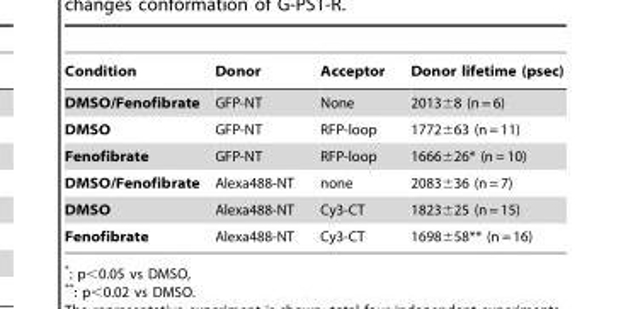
<table><thead><tr><td>Condition</td><td>Donor</td><td>Acceptor</td><td>Donor lifetime (psec)</td></tr></thead><tbody><tr><td>DMSO/Fenofibrate</td><td>GFP-NT</td><td>None</td><td>2013±8 (n = 6)</td></tr><tr><td>DMSO</td><td>GFP-NT</td><td>RFP-loop</td><td>1772±63 (n = 11)</td></tr><tr><td>Fenofibrate</td><td>GFP-NT</td><td>RFP-loop</td><td>1666±26* (n = 10)</td></tr><tr><td>DMSO/Fenofibrate</td><td>Alexa488-NT</td><td>none</td><td>2083±36 (n = 7)</td></tr><tr><td>DMSO</td><td>Alexa488-NT</td><td>Cy3-CT</td><td>1823±25 (n = 15)</td></tr><tr><td>Fenofibrate</td><td>Alexa488-NT</td><td>Cy3-CT</td><td>1698±58** (n = 16)</td></tr></tbody></table>